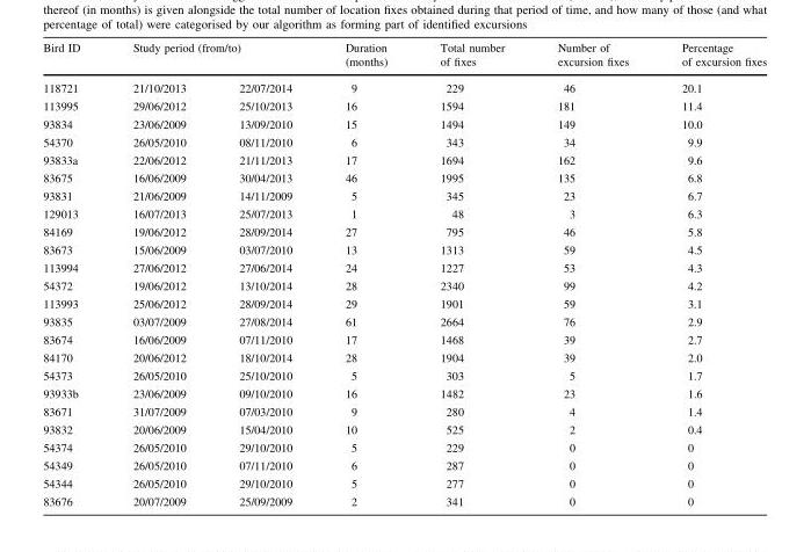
<table><thead><tr><td rowspan="2">Bird ID 118721</td><td colspan="2">Study period (from/to)</td><td rowspan="2">Duration (months) 9</td><td rowspan="2">Total number of fixes 229</td><td rowspan="2">Number of excursion fixes 46</td><td rowspan="2">Percentage of excursion fixes 20.1</td></tr><tr><td>21/10/2013</td><td>22/07/2014</td></tr></thead><tbody><tr><td>113995</td><td>29/06/2012</td><td>25/10/2013</td><td>16</td><td>1594</td><td>181</td><td>11.4</td></tr><tr><td>93834</td><td>23/06/2009</td><td>13/09/2010</td><td>15</td><td>1494</td><td>149</td><td>10.0</td></tr><tr><td>54370</td><td>26/05/2010</td><td>08/11/2010</td><td>6</td><td>343</td><td>34</td><td>9.9</td></tr><tr><td>93833a</td><td>22/06/2012</td><td>21/11/2013</td><td>17</td><td>1694</td><td>162</td><td>9.6</td></tr><tr><td>83675</td><td>16/06/2009</td><td>30/04/2013</td><td>46</td><td>1995</td><td>135</td><td>6.8</td></tr><tr><td>93831</td><td>21/06/2009</td><td>14/11/2009</td><td>5</td><td>345</td><td>23</td><td>6.7</td></tr><tr><td>129013</td><td>16/07/2013</td><td>25/07/2013</td><td>1</td><td>48</td><td>3</td><td>6.3</td></tr><tr><td>84169</td><td>19/06/2012</td><td>28/09/2014</td><td>27</td><td>795</td><td>46</td><td>5.8</td></tr><tr><td>83673</td><td>15/06/2009</td><td>03/07/2010</td><td>13</td><td>1313</td><td>59</td><td>4.5</td></tr><tr><td>113994</td><td>27/06/2012</td><td>27/06/2014</td><td>24</td><td>1227</td><td>53</td><td>4.3</td></tr><tr><td>54372</td><td>19/06/2012</td><td>13/10/2014</td><td>28</td><td>2340</td><td>99</td><td>4.2</td></tr><tr><td>113993</td><td>25/06/2012</td><td>28/09/2014</td><td>29</td><td>1901</td><td>59</td><td>3.1</td></tr><tr><td>93835</td><td>03/07/2009</td><td>27/08/2014</td><td>61</td><td>2664</td><td>76</td><td>2.9</td></tr><tr><td>83674</td><td>16/06/2009</td><td>07/11/2010</td><td>17</td><td>1468</td><td>39</td><td>2.7</td></tr><tr><td>84170</td><td>20/06/2012</td><td>18/10/2014</td><td>28</td><td>1904</td><td>39</td><td>2.0</td></tr><tr><td>54373</td><td>26/05/2010</td><td>25/10/2010</td><td>5</td><td>303</td><td>5</td><td>1.7</td></tr><tr><td>93933b</td><td>23/06/2009</td><td>09/10/2010</td><td>16</td><td>1482</td><td>23</td><td>1.6</td></tr><tr><td>83671</td><td>31/07/2009</td><td>07/03/2010</td><td>9</td><td>280</td><td>4</td><td>1.4</td></tr><tr><td>93832</td><td>20/06/2009</td><td>15/04/2010</td><td>10</td><td>525</td><td>2</td><td>0.4</td></tr><tr><td>54374</td><td>26/05/2010</td><td>29/10/2010</td><td>5</td><td>229</td><td>0</td><td>0</td></tr><tr><td>54349</td><td>26/05/2010</td><td>07/11/2010</td><td>6</td><td>287</td><td>0</td><td>0</td></tr><tr><td>54344</td><td>26/05/2010</td><td>29/10/2010</td><td>5</td><td>277</td><td>0</td><td>0</td></tr><tr><td>83676</td><td>20/07/2009</td><td>25/09/2009</td><td>2</td><td>341</td><td>0</td><td>0</td></tr></tbody></table>